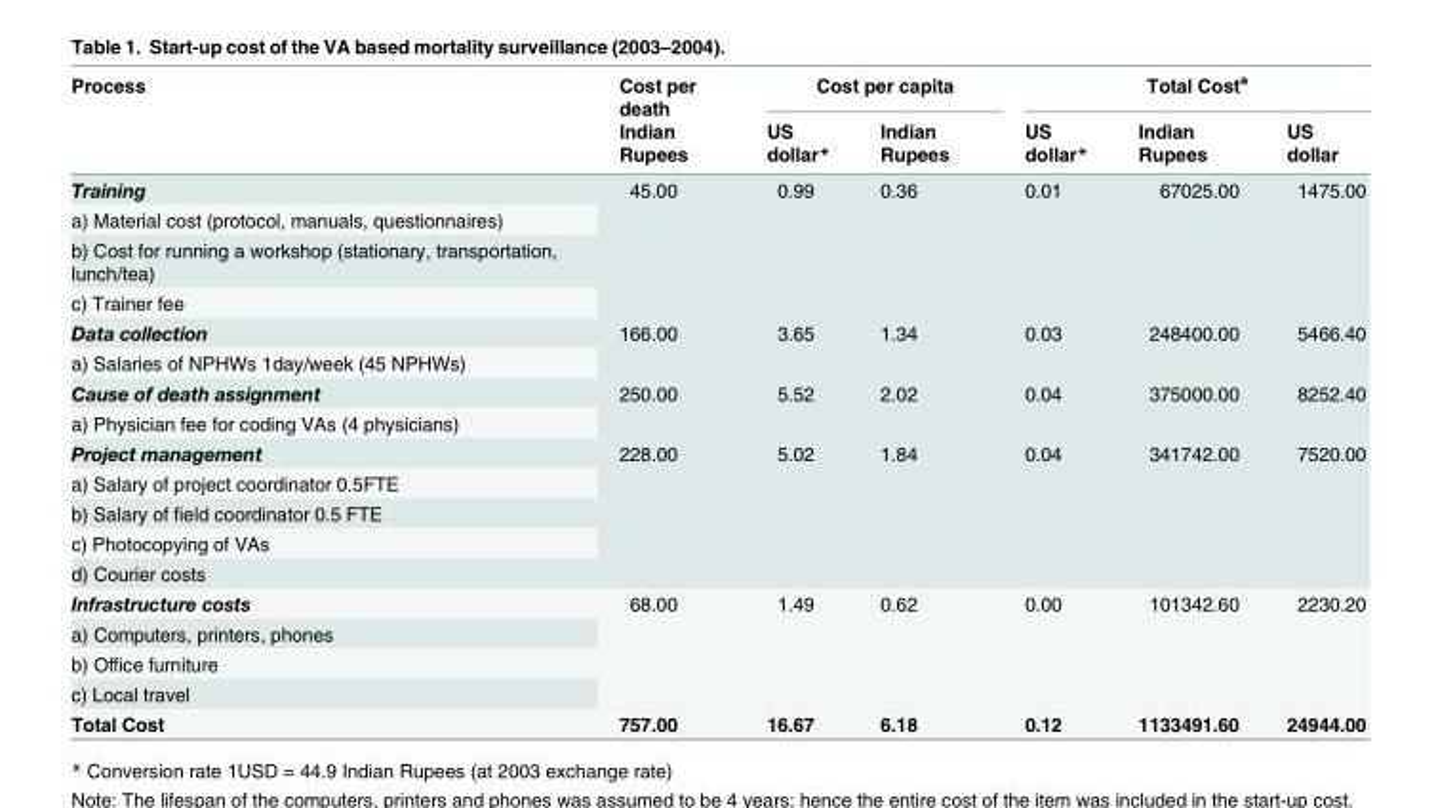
<table><thead><tr><td rowspan="2">Process</td><td rowspan="2">Cost per death Indian Rupees</td><td colspan="2">Cost per capita</td><td colspan="3">Total Cost<sup>a</sup></td></tr><tr><td>US dollar*</td><td>Indian Rupees</td><td>US dollar*</td><td>Indian Rupees</td><td>US dollar</td></tr></thead><tbody><tr><td>Training</td><td rowspan="4">45.00</td><td rowspan="4">0.99</td><td rowspan="4">0.36</td><td rowspan="4">0.01</td><td rowspan="4">67025.00</td><td rowspan="4">1475.00</td></tr><tr><td>a) Material cost (protocol, manuals, questionnaires)</td></tr><tr><td>b) Cost for running a workshop (stationary, transportation, lunch/tea)</td></tr><tr><td>c) Trainer fee</td></tr><tr><td>Data collection</td><td rowspan="2">166.00</td><td rowspan="2">3.65</td><td rowspan="2">1.34</td><td rowspan="2">0.03</td><td rowspan="2">248400.00</td><td rowspan="2">5466.40</td></tr><tr><td>a) Salaries of NPHWs 1day/week (45 NPHWs)</td></tr><tr><td>Cause of death assignment</td><td rowspan="2">250.00</td><td rowspan="2">5.52</td><td rowspan="2">2.02</td><td rowspan="2">0.04</td><td rowspan="2">375000.00</td><td rowspan="2">8252.40</td></tr><tr><td>a) Physician fee for coding VAs (4 physicians)</td></tr><tr><td>Project management</td><td rowspan="5">228.00</td><td rowspan="5">5.02</td><td rowspan="5">1.84</td><td rowspan="5">0.04</td><td rowspan="5">341742.00</td><td rowspan="5">7520.00</td></tr><tr><td>a) Salary of project coordinator 0.5FTE</td></tr><tr><td>b) Salary of field coordinator 0.5 FTE</td></tr><tr><td>c) Photocopying of VAs</td></tr><tr><td>d) Courier costs</td></tr><tr><td>Infrastructure costs</td><td rowspan="4">68.00</td><td rowspan="4">1.49</td><td rowspan="4">0.62</td><td rowspan="4">0.00</td><td rowspan="4">101342.60</td><td rowspan="4">2230.20</td></tr><tr><td>a) Computers, printers, phones</td></tr><tr><td>b) Office furniture</td></tr><tr><td>c) Local travel</td></tr><tr><td>Total Cost</td><td>757.00</td><td>16.67</td><td>6.18</td><td>0.12</td><td>1133491.60</td><td>24944.00</td></tr></tbody></table>